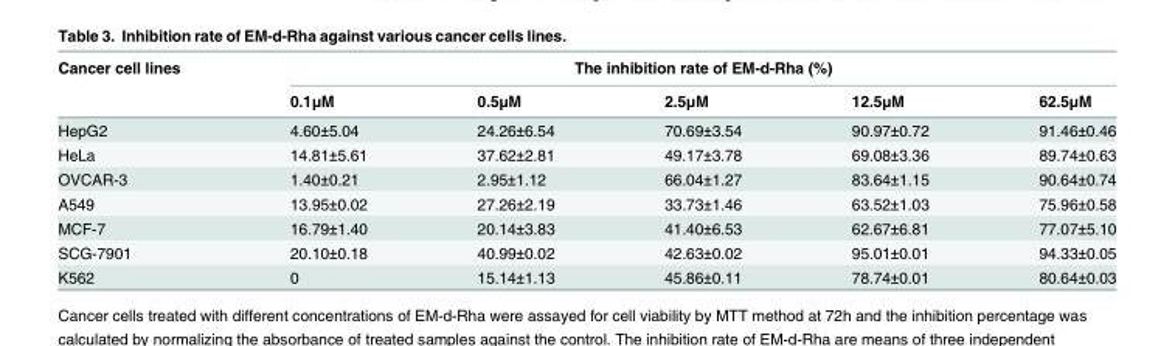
<table><thead><tr><td rowspan="2">Cancer cell lines</td><td colspan="5">The inhibition rate of EM-d-Rha (%)</td></tr><tr><td>0.1μM</td><td>0.5μM</td><td>2.5μM</td><td>12.5μM</td><td>62.5μM</td></tr></thead><tbody><tr><td>HepG2</td><td>4.60±5.04</td><td>24.26±6.54</td><td>70.69±3.54</td><td>90.97±0.72</td><td>91.46±0.46</td></tr><tr><td>HeLa</td><td>14.81±5.61</td><td>37.62±2.81</td><td>49.17±3.78</td><td>69.08±3.36</td><td>89.74±0.63</td></tr><tr><td>OVCAR-3</td><td>1.40±0.21</td><td>2.95±1.12</td><td>66.04±1.27</td><td>83.64±1.15</td><td>90.64±0.74</td></tr><tr><td>A549</td><td>13.95±0.02</td><td>27.26±2.19</td><td>33.73±1.46</td><td>63.52±1.03</td><td>75.96±0.58</td></tr><tr><td>MCF-7</td><td>16.79±1.40</td><td>20.14±3.83</td><td>41.40±6.53</td><td>62.67±6.81</td><td>77.07±5.10</td></tr><tr><td>SCG-7901</td><td>20.10±0.18</td><td>40.99±0.02</td><td>42.63±0.02</td><td>95.01±0.01</td><td>94.33±0.05</td></tr><tr><td>K562</td><td>0</td><td>15.14±1.13</td><td>45.86±0.11</td><td>78.74±0.01</td><td>80.64±0.03</td></tr></tbody></table>